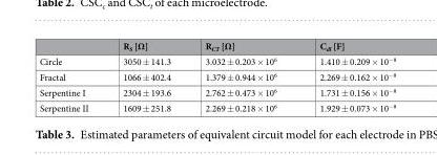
<table><thead><tr><td></td><td>R<sub>S</sub> [Ω]</td><td>R<sub>CT</sub> [Ω]</td><td>C<sub>dl</sub> [F]</td></tr></thead><tbody><tr><td>Circle</td><td>3050 ± 141.3</td><td>3.032 ± 0.203 × 10<sup>6</sup></td><td>1.410 ± 0.209 × 10<sup>−8</sup></td></tr><tr><td>Fractal</td><td>1066 ± 402.4</td><td>1.379 ± 0.944 × 10<sup>6</sup></td><td>2.269 ± 0.162 × 10<sup>−8</sup></td></tr><tr><td>Serpentine I</td><td>2304 ± 193.6</td><td>2.762 ± 0.473 × 10<sup>6</sup></td><td>1.731 ± 0.156 × 10<sup>−8</sup></td></tr><tr><td>Serpentine II</td><td>1609 ± 251.8</td><td>2.269 ± 0.218 × 10<sup>6</sup></td><td>1.929 ± 0.073 × 10<sup>−8</sup></td></tr></tbody></table>